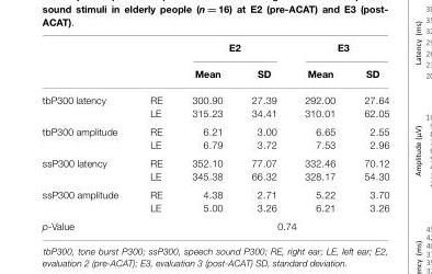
<table><thead><tr><td rowspan="2"></td><td rowspan="2"></td><td colspan="2">E2</td><td colspan="2">E3</td></tr><tr><td>Mean</td><td>SD</td><td>Mean</td><td>SD</td></tr></thead><tbody><tr><td rowspan="2">tbP300 latency</td><td>RE</td><td>300.90</td><td>27.39</td><td>292.00</td><td>27.64</td></tr><tr><td>LE</td><td>315.23</td><td>34.41</td><td>310.01</td><td>62.05</td></tr><tr><td rowspan="2">tbP300 amplitude</td><td>RE</td><td>6.21</td><td>3.00</td><td>6.65</td><td>2.55</td></tr><tr><td>LE</td><td>6.79</td><td>3.72</td><td>7.53</td><td>2.96</td></tr><tr><td rowspan="2">ssP300 latency</td><td>RE</td><td>352.10</td><td>77.07</td><td>332.46</td><td>70.12</td></tr><tr><td>LE</td><td>345.38</td><td>66.32</td><td>328.17</td><td>54.30</td></tr><tr><td rowspan="2">ssP300 amplitude</td><td>RE</td><td>4.38</td><td>2.71</td><td>5.22</td><td>3.70</td></tr><tr><td>LE</td><td>5.00</td><td>3.26</td><td>6.21</td><td>3.26</td></tr><tr><td>p-Value</td><td></td><td colspan="4">0.74</td></tr></tbody></table>